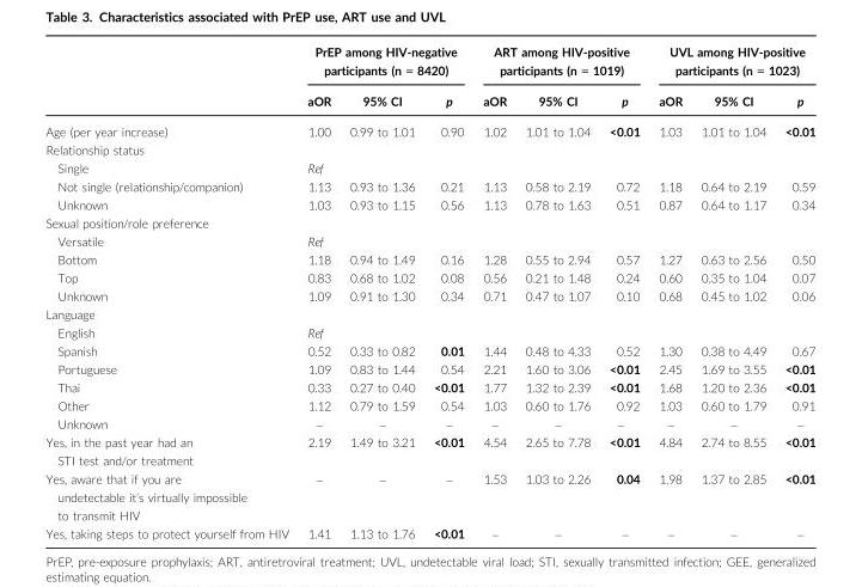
<table><thead><tr><td rowspan="2"></td><td colspan="3">PrEP among HIV-negative participants (n = 8420)</td><td colspan="3">ART among HIV-positive participants (n = 1019)</td><td colspan="3">UVL among HIV-positive participants (n = 1023)</td></tr><tr><td>aOR</td><td>95% CI</td><td>p</td><td>aOR</td><td>95% CI</td><td>p</td><td>aOR</td><td>95% CI</td><td>p</td></tr></thead><tbody><tr><td>Age (per year increase)</td><td>1.00</td><td>0.99 to 1.01</td><td>0.90</td><td>1.02</td><td>1.01 to 1.04</td><td>&lt;0.01</td><td>1.03</td><td>1.01 to 1.04</td><td>&lt;0.01</td></tr><tr><td colspan="10">Relationship status</td></tr><tr><td>Single</td><td>Ref</td><td></td><td></td><td></td><td></td><td></td><td></td><td></td><td></td></tr><tr><td>Not single (relationship/companion)</td><td>1.13</td><td>0.93 to 1.36</td><td>0.21</td><td>1.13</td><td>0.58 to 2.19</td><td>0.72</td><td>1.18</td><td>0.64 to 2.19</td><td>0.59</td></tr><tr><td>Unknown</td><td>1.03</td><td>0.93 to 1.15</td><td>0.56</td><td>1.13</td><td>0.78 to 1.63</td><td>0.51</td><td>0.87</td><td>0.64 to 1.17</td><td>0.34</td></tr><tr><td colspan="10">Sexual position/role preference</td></tr><tr><td>Versatile</td><td>Ref</td><td></td><td></td><td></td><td></td><td></td><td></td><td></td><td></td></tr><tr><td>Bottom</td><td>1.18</td><td>0.94 to 1.49</td><td>0.16</td><td>1.28</td><td>0.55 to 2.94</td><td>0.57</td><td>1.27</td><td>0.63 to 2.56</td><td>0.50</td></tr><tr><td>Top</td><td>0.83</td><td>0.68 to 1.02</td><td>0.08</td><td>0.56</td><td>0.21 to 1.48</td><td>0.24</td><td>0.60</td><td>0.35 to 1.04</td><td>0.07</td></tr><tr><td>Unknown</td><td>1.09</td><td>0.91 to 1.30</td><td>0.34</td><td>0.71</td><td>0.47 to 1.07</td><td>0.10</td><td>0.68</td><td>0.45 to 1.02</td><td>0.06</td></tr><tr><td colspan="10">Language</td></tr><tr><td>English</td><td>Ref</td><td></td><td></td><td></td><td></td><td></td><td></td><td></td><td></td></tr><tr><td>Spanish</td><td>0.52</td><td>0.33 to 0.82</td><td>0.01</td><td>1.44</td><td>0.48 to 4.33</td><td>0.52</td><td>1.30</td><td>0.38 to 4.49</td><td>0.67</td></tr><tr><td>Portuguese</td><td>1.09</td><td>0.83 to 1.44</td><td>0.54</td><td>2.21</td><td>1.60 to 3.06</td><td>&lt;0.01</td><td>2.45</td><td>1.69 to 3.55</td><td>&lt;0.01</td></tr><tr><td>Thai</td><td>0.33</td><td>0.27 to 0.40</td><td>&lt;0.01</td><td>1.77</td><td>1.32 to 2.39</td><td>&lt;0.01</td><td>1.68</td><td>1.20 to 2.36</td><td>&lt;0.01</td></tr><tr><td>Other</td><td>1.12</td><td>0.79 to 1.59</td><td>0.54</td><td>1.03</td><td>0.60 to 1.76</td><td>0.92</td><td>1.03</td><td>0.60 to 1.79</td><td>0.91</td></tr><tr><td>Unknown</td><td>–</td><td>–</td><td>–</td><td>–</td><td>–</td><td>–</td><td>–</td><td>–</td><td>–</td></tr><tr><td>Yes, in the past year had an STI test and/or treatment</td><td>2.19</td><td>1.49 to 3.21</td><td>&lt;0.01</td><td>4.54</td><td>2.65 to 7.78</td><td>&lt;0.01</td><td>4.84</td><td>2.74 to 8.55</td><td>&lt;0.01</td></tr><tr><td>Yes, aware that if you are undetectable it’s virtually impossible to transmit HIV</td><td>–</td><td>–</td><td>–</td><td>1.53</td><td>1.03 to 2.26</td><td>0.04</td><td>1.98</td><td>1.37 to 2.85</td><td>&lt;0.01</td></tr><tr><td>Yes, taking steps to protect yourself from HIV</td><td>1.41</td><td>1.13 to 1.76</td><td>&lt;0.01</td><td>–</td><td>–</td><td>–</td><td>–</td><td>–</td><td>–</td></tr></tbody></table>